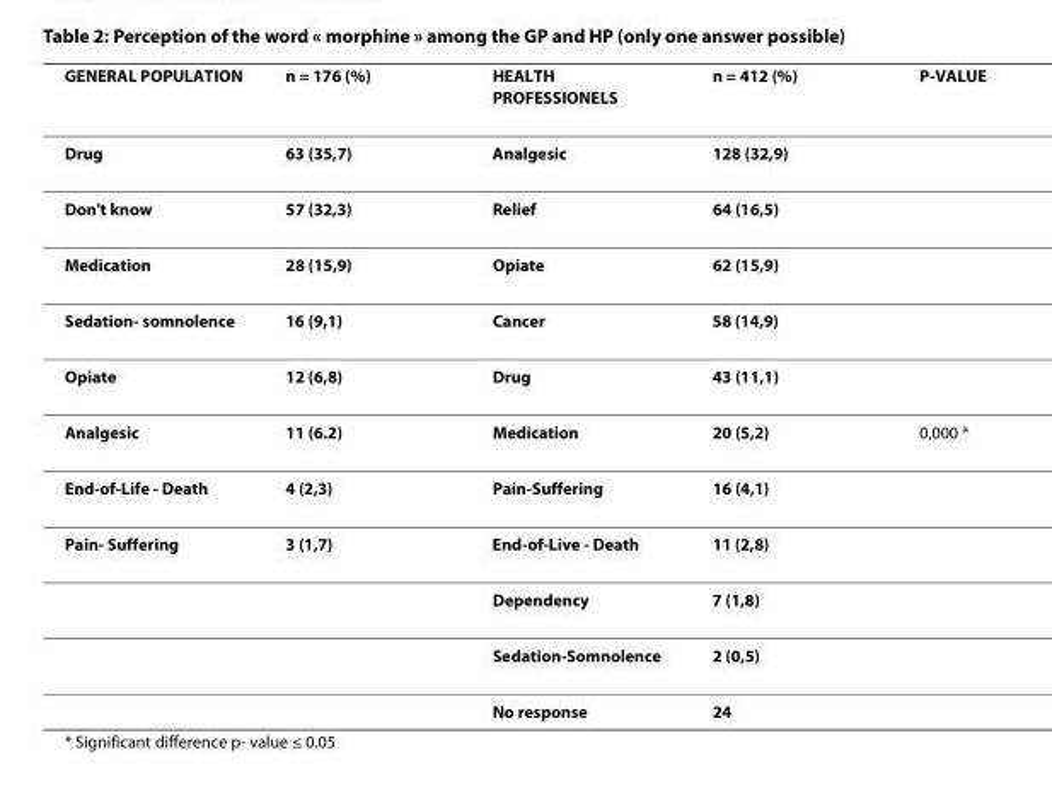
<table><thead><tr><td>GENERAL POPULATION</td><td>n = 176 (%)</td><td>HEALTH PROFESSIONELS</td><td>n = 412 (%)</td><td>P-VALUE</td></tr></thead><tbody><tr><td>Drug</td><td>63 (35,7)</td><td>Analgesic</td><td>128 (32,9)</td><td></td></tr><tr><td>Don&#x27;t know</td><td>57 (32,3)</td><td>Relief</td><td>64 (16,5)</td><td></td></tr><tr><td>Medication</td><td>28 (15,9)</td><td>Opiate</td><td>62 (15,9)</td><td></td></tr><tr><td>Sedation- somnolence</td><td>16 (9,1)</td><td>Cancer</td><td>58 (14,9)</td><td></td></tr><tr><td>Opiate</td><td>12 (6,8)</td><td>Drug</td><td>43 (11,1)</td><td></td></tr><tr><td>Analgesic</td><td>11 (6.2)</td><td>Medication</td><td>20 (5,2)</td><td>0,000 *</td></tr><tr><td>End-of-Life - Death</td><td>4 (2,3)</td><td>Pain-Suffering</td><td>16 (4,1)</td><td></td></tr><tr><td rowspan="4">Pain- Suffering</td><td>3 (1,7)</td><td>End-of-Live - Death</td><td>11 (2,8)</td><td></td></tr><tr><td></td><td>Dependency</td><td>7 (1,8)</td><td></td></tr><tr><td></td><td>Sedation-Somnolence</td><td>2 (0,5)</td><td></td></tr><tr><td></td><td>No response</td><td>24</td><td></td></tr></tbody></table>